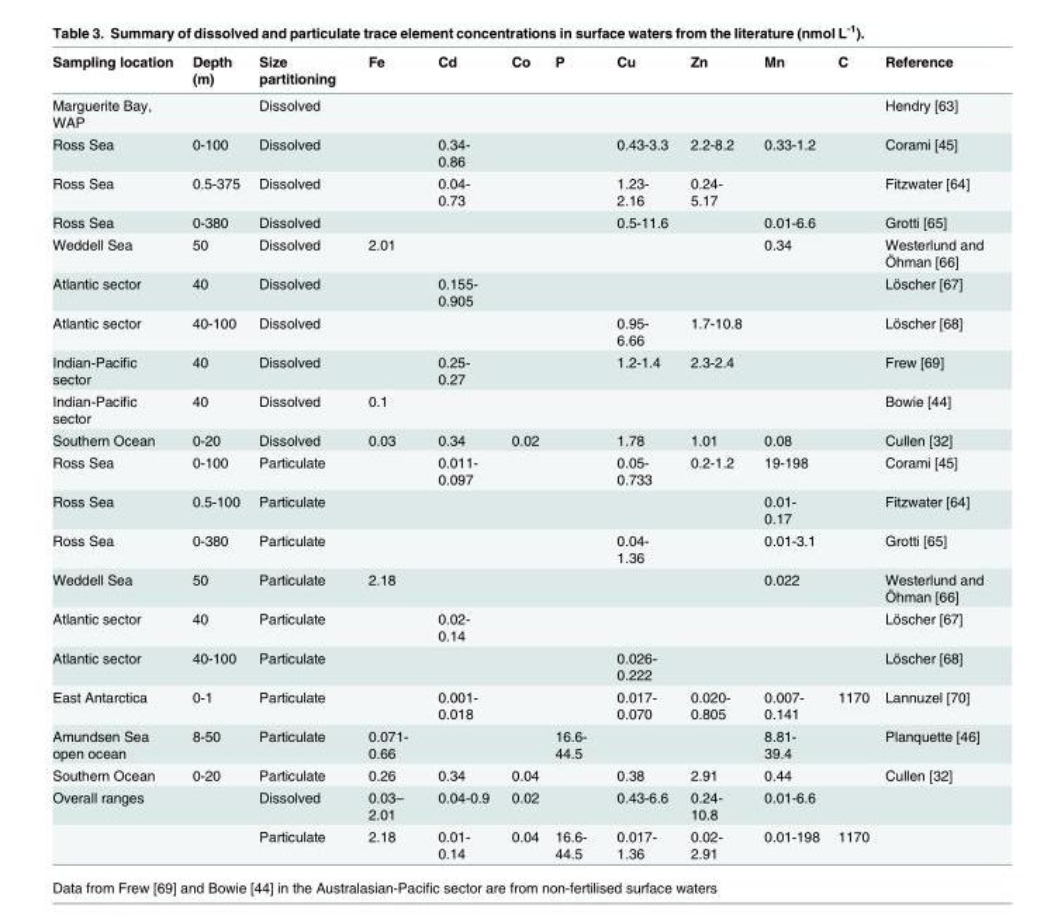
<table><thead><tr><td>Sampling location</td><td>Depth (m)</td><td>Size partitioning</td><td>Fe</td><td>Cd</td><td>Co</td><td>P</td><td>Cu</td><td>Zn</td><td>Mn</td><td>C</td><td>Reference</td></tr></thead><tbody><tr><td>Marguerite Bay, WAP</td><td></td><td>Dissolved</td><td></td><td></td><td></td><td></td><td></td><td></td><td></td><td></td><td>Hendry [63]</td></tr><tr><td>Ross Sea</td><td>0-100</td><td>Dissolved</td><td></td><td>0.34- 0.86</td><td></td><td></td><td>0.43-3.3</td><td>2.2-8.2</td><td>0.33-1.2</td><td></td><td>Corami [45]</td></tr><tr><td>Ross Sea</td><td>0.5-375</td><td>Dissolved</td><td></td><td>0.04- 0.73</td><td></td><td></td><td>1.23- 2.16</td><td>0.24- 5.17</td><td></td><td></td><td>Fitzwater [64]</td></tr><tr><td>Ross Sea</td><td>0-380</td><td>Dissolved</td><td></td><td></td><td></td><td></td><td>0.5-11.6</td><td></td><td>0.01-6.6</td><td></td><td>Grotti [65]</td></tr><tr><td>Weddell Sea</td><td>50</td><td>Dissolved</td><td>2.01</td><td></td><td></td><td></td><td></td><td></td><td>0.34</td><td></td><td>Westerlund and Öhman [66]</td></tr><tr><td>Atlantic sector</td><td>40</td><td>Dissolved</td><td></td><td>0.155- 0.905</td><td></td><td></td><td></td><td></td><td></td><td></td><td>Löscher [67]</td></tr><tr><td>Atlantic sector</td><td>40-100</td><td>Dissolved</td><td></td><td></td><td></td><td></td><td>0.95- 6.66</td><td>1.7-10.8</td><td></td><td></td><td>Löscher [68]</td></tr><tr><td>Indian-Pacific sector</td><td>40</td><td>Dissolved</td><td></td><td>0.25- 0.27</td><td></td><td></td><td>1.2-1.4</td><td>2.3-2.4</td><td></td><td></td><td>Frew [69]</td></tr><tr><td>Indian-Pacific sector</td><td>40</td><td>Dissolved</td><td>0.1</td><td></td><td></td><td></td><td></td><td></td><td></td><td></td><td>Bowie [44]</td></tr><tr><td>Southern Ocean</td><td>0-20</td><td>Dissolved</td><td>0.03</td><td>0.34</td><td>0.02</td><td></td><td>1.78</td><td>1.01</td><td>0.08</td><td></td><td>Cullen [32]</td></tr><tr><td>Ross Sea</td><td>0-100</td><td>Particulate</td><td></td><td>0.011- 0.097</td><td></td><td></td><td>0.05- 0.733</td><td>0.2-1.2</td><td>19-198</td><td></td><td>Corami [45]</td></tr><tr><td>Ross Sea</td><td>0.5-100</td><td>Particulate</td><td></td><td></td><td></td><td></td><td></td><td></td><td>0.01- 0.17</td><td></td><td>Fitzwater [64]</td></tr><tr><td>Ross Sea</td><td>0-380</td><td>Particulate</td><td></td><td></td><td></td><td></td><td>0.04- 1.36</td><td></td><td>0.01-3.1</td><td></td><td>Grotti [65]</td></tr><tr><td>Weddell Sea</td><td>50</td><td>Particulate</td><td>2.18</td><td></td><td></td><td></td><td></td><td></td><td>0.022</td><td></td><td>Westerlund and Öhman [66]</td></tr><tr><td>Atlantic sector</td><td>40</td><td>Particulate</td><td></td><td>0.02- 0.14</td><td></td><td></td><td></td><td></td><td></td><td></td><td>Löscher [67]</td></tr><tr><td>Atlantic sector</td><td>40-100</td><td>Particulate</td><td></td><td></td><td></td><td></td><td>0.026- 0.222</td><td></td><td></td><td></td><td>Löscher [68]</td></tr><tr><td>East Antarctica</td><td>0-1</td><td>Particulate</td><td></td><td>0.001- 0.018</td><td></td><td></td><td>0.017- 0.070</td><td>0.020- 0.805</td><td>0.007- 0.141</td><td>1170</td><td>Lannuzel [70]</td></tr><tr><td>Amundsen Sea open ocean</td><td>8-50</td><td>Particulate</td><td>0.071- 0.66</td><td></td><td></td><td>16.6- 44.5</td><td></td><td></td><td>8.81- 39.4</td><td></td><td>Planquette [46]</td></tr><tr><td>Southern Ocean</td><td>0-20</td><td>Particulate</td><td>0.26</td><td>0.34</td><td>0.04</td><td></td><td>0.38</td><td>2.91</td><td>0.44</td><td></td><td>Cullen [32]</td></tr><tr><td rowspan="2">Overall ranges</td><td></td><td>Dissolved</td><td>0.03– 2.01</td><td>0.04-0.9</td><td>0.02</td><td></td><td>0.43-6.6</td><td>0.24- 10.8</td><td>0.01-6.6</td><td></td><td></td></tr><tr><td></td><td>Particulate</td><td>2.18</td><td>0.01- 0.14</td><td>0.04</td><td>16.6- 44.5</td><td>0.017- 1.36</td><td>0.02- 2.91</td><td>0.01-198</td><td>1170</td><td></td></tr></tbody></table>